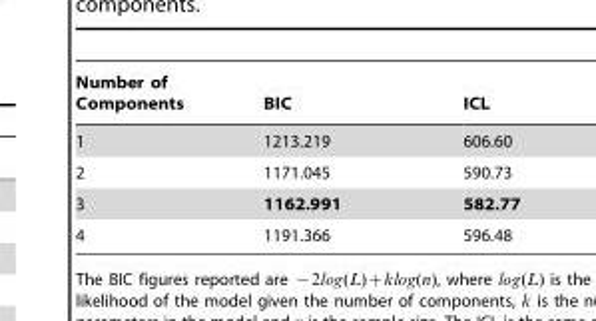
<table><thead><tr><td>Number of Components</td><td>BIC</td><td>ICL</td></tr></thead><tbody><tr><td>1</td><td>1213.219</td><td>606.60</td></tr><tr><td>2</td><td>1171.045</td><td>590.73</td></tr><tr><td>3</td><td>1162.991</td><td>582.77</td></tr><tr><td>4</td><td>1191.366</td><td>596.48</td></tr></tbody></table>